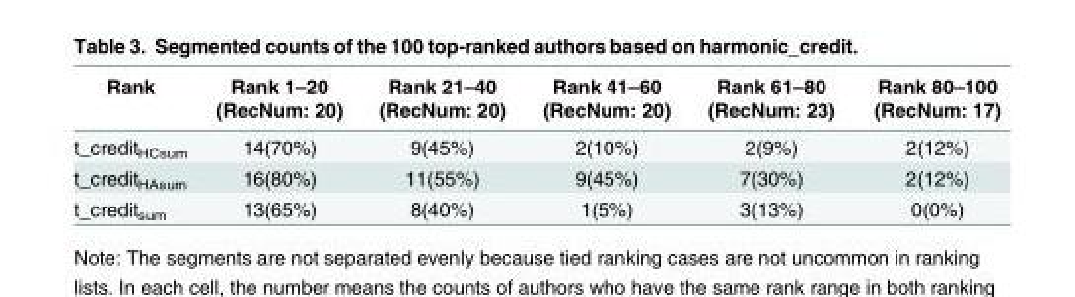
<table><thead><tr><td>Rank</td><td>Rank 1–20 (RecNum: 20)</td><td>Rank 21–40 (RecNum: 20)</td><td>Rank 41–60 (RecNum: 20)</td><td>Rank 61–80 (RecNum: 23)</td><td>Rank 80–100 (RecNum: 17)</td></tr></thead><tbody><tr><td>t_credit<sub>HCsum</sub></td><td>14(70%)</td><td>9(45%)</td><td>2(10%)</td><td>2(9%)</td><td>2(12%)</td></tr><tr><td>t_credit<sub>HAsum</sub></td><td>16(80%)</td><td>11(55%)</td><td>9(45%)</td><td>7(30%)</td><td>2(12%)</td></tr><tr><td>t_credit<sub>sum</sub></td><td>13(65%)</td><td>8(40%)</td><td>1(5%)</td><td>3(13%)</td><td>0(0%)</td></tr></tbody></table>